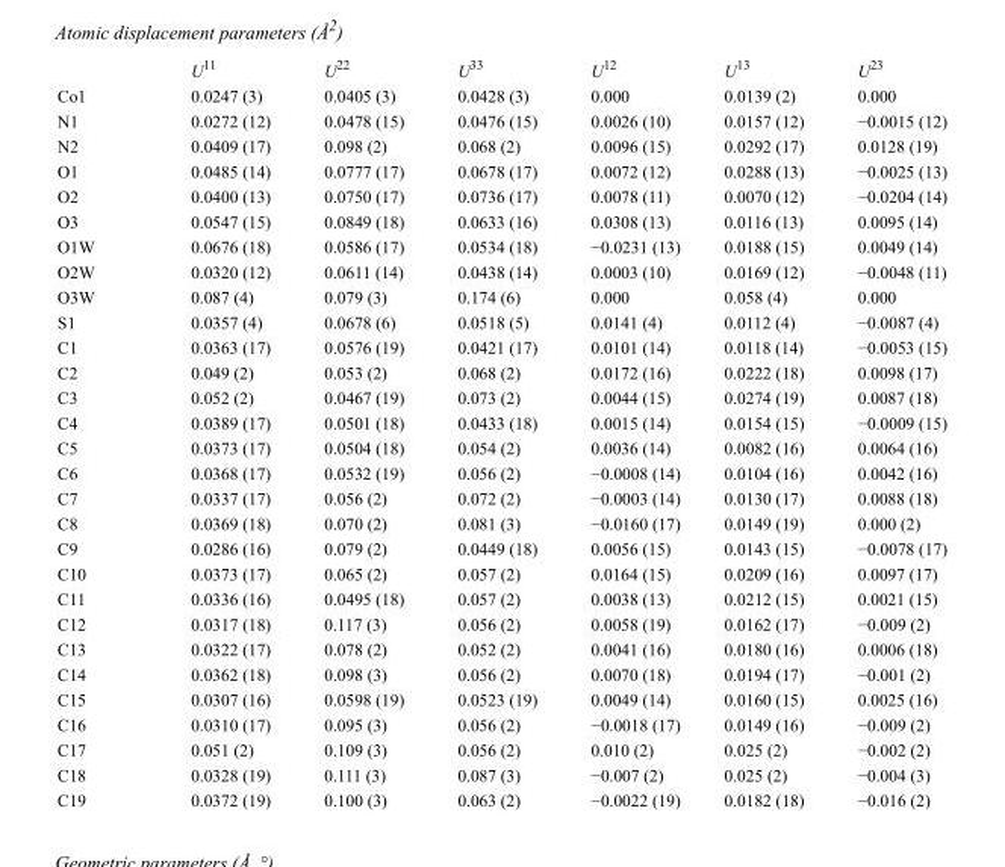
<table><thead><tr><td></td><td>U<sup>11</sup></td><td>U<sup>22</sup></td><td>U<sup>33</sup></td><td>U<sup>12</sup></td><td>U<sup>13</sup></td><td>U<sup>23</sup></td></tr></thead><tbody><tr><td>Co1</td><td>0.0247 (3)</td><td>0.0405 (3)</td><td>0.0428 (3)</td><td>0.000</td><td>0.0139 (2)</td><td>0.000</td></tr><tr><td>N1</td><td>0.0272 (12)</td><td>0.0478 (15)</td><td>0.0476 (15)</td><td>0.0026 (10)</td><td>0.0157 (12)</td><td>−0.0015 (12)</td></tr><tr><td>N2</td><td>0.0409 (17)</td><td>0.098 (2)</td><td>0.068 (2)</td><td>0.0096 (15)</td><td>0.0292 (17)</td><td>0.0128 (19)</td></tr><tr><td>O1</td><td>0.0485 (14)</td><td>0.0777 (17)</td><td>0.0678 (17)</td><td>0.0072 (12)</td><td>0.0288 (13)</td><td>−0.0025 (13)</td></tr><tr><td>O2</td><td>0.0400 (13)</td><td>0.0750 (17)</td><td>0.0736 (17)</td><td>0.0078 (11)</td><td>0.0070 (12)</td><td>−0.0204 (14)</td></tr><tr><td>O3</td><td>0.0547 (15)</td><td>0.0849 (18)</td><td>0.0633 (16)</td><td>0.0308 (13)</td><td>0.0116 (13)</td><td>0.0095 (14)</td></tr><tr><td>O1W</td><td>0.0676 (18)</td><td>0.0586 (17)</td><td>0.0534 (18)</td><td>−0.0231 (13)</td><td>0.0188 (15)</td><td>0.0049 (14)</td></tr><tr><td>O2W</td><td>0.0320 (12)</td><td>0.0611 (14)</td><td>0.0438 (14)</td><td>0.0003 (10)</td><td>0.0169 (12)</td><td>−0.0048 (11)</td></tr><tr><td>O3W</td><td>0.087 (4)</td><td>0.079 (3)</td><td>0.174 (6)</td><td>0.000</td><td>0.058 (4)</td><td>0.000</td></tr><tr><td>S1</td><td>0.0357 (4)</td><td>0.0678 (6)</td><td>0.0518 (5)</td><td>0.0141 (4)</td><td>0.0112 (4)</td><td>−0.0087 (4)</td></tr><tr><td>C1</td><td>0.0363 (17)</td><td>0.0576 (19)</td><td>0.0421 (17)</td><td>0.0101 (14)</td><td>0.0118 (14)</td><td>−0.0053 (15)</td></tr><tr><td>C2</td><td>0.049 (2)</td><td>0.053 (2)</td><td>0.068 (2)</td><td>0.0172 (16)</td><td>0.0222 (18)</td><td>0.0098 (17)</td></tr><tr><td>C3</td><td>0.052 (2)</td><td>0.0467 (19)</td><td>0.073 (2)</td><td>0.0044 (15)</td><td>0.0274 (19)</td><td>0.0087 (18)</td></tr><tr><td>C4</td><td>0.0389 (17)</td><td>0.0501 (18)</td><td>0.0433 (18)</td><td>0.0015 (14)</td><td>0.0154 (15)</td><td>−0.0009 (15)</td></tr><tr><td>C5</td><td>0.0373 (17)</td><td>0.0504 (18)</td><td>0.054 (2)</td><td>0.0036 (14)</td><td>0.0082 (16)</td><td>0.0064 (16)</td></tr><tr><td>C6</td><td>0.0368 (17)</td><td>0.0532 (19)</td><td>0.056 (2)</td><td>−0.0008 (14)</td><td>0.0104 (16)</td><td>0.0042 (16)</td></tr><tr><td>C7</td><td>0.0337 (17)</td><td>0.056 (2)</td><td>0.072 (2)</td><td>−0.0003 (14)</td><td>0.0130 (17)</td><td>0.0088 (18)</td></tr><tr><td>C8</td><td>0.0369 (18)</td><td>0.070 (2)</td><td>0.081 (3)</td><td>−0.0160 (17)</td><td>0.0149 (19)</td><td>0.000 (2)</td></tr><tr><td>C9</td><td>0.0286 (16)</td><td>0.079 (2)</td><td>0.0449 (18)</td><td>0.0056 (15)</td><td>0.0143 (15)</td><td>−0.0078 (17)</td></tr><tr><td>C10</td><td>0.0373 (17)</td><td>0.065 (2)</td><td>0.057 (2)</td><td>0.0164 (15)</td><td>0.0209 (16)</td><td>0.0097 (17)</td></tr><tr><td>C11</td><td>0.0336 (16)</td><td>0.0495 (18)</td><td>0.057 (2)</td><td>0.0038 (13)</td><td>0.0212 (15)</td><td>0.0021 (15)</td></tr><tr><td>C12</td><td>0.0317 (18)</td><td>0.117 (3)</td><td>0.056 (2)</td><td>0.0058 (19)</td><td>0.0162 (17)</td><td>−0.009 (2)</td></tr><tr><td>C13</td><td>0.0322 (17)</td><td>0.078 (2)</td><td>0.052 (2)</td><td>0.0041 (16)</td><td>0.0180 (16)</td><td>0.0006 (18)</td></tr><tr><td>C14</td><td>0.0362 (18)</td><td>0.098 (3)</td><td>0.056 (2)</td><td>0.0070 (18)</td><td>0.0194 (17)</td><td>−0.001 (2)</td></tr><tr><td>C15</td><td>0.0307 (16)</td><td>0.0598 (19)</td><td>0.0523 (19)</td><td>0.0049 (14)</td><td>0.0160 (15)</td><td>0.0025 (16)</td></tr><tr><td>C16</td><td>0.0310 (17)</td><td>0.095 (3)</td><td>0.056 (2)</td><td>−0.0018 (17)</td><td>0.0149 (16)</td><td>−0.009 (2)</td></tr><tr><td>C17</td><td>0.051 (2)</td><td>0.109 (3)</td><td>0.056 (2)</td><td>0.010 (2)</td><td>0.025 (2)</td><td>−0.002 (2)</td></tr><tr><td>C18</td><td>0.0328 (19)</td><td>0.111 (3)</td><td>0.087 (3)</td><td>−0.007 (2)</td><td>0.025 (2)</td><td>−0.004 (3)</td></tr><tr><td>C19</td><td>0.0372 (19)</td><td>0.100 (3)</td><td>0.063 (2)</td><td>−0.0022 (19)</td><td>0.0182 (18)</td><td>−0.016 (2)</td></tr></tbody></table>